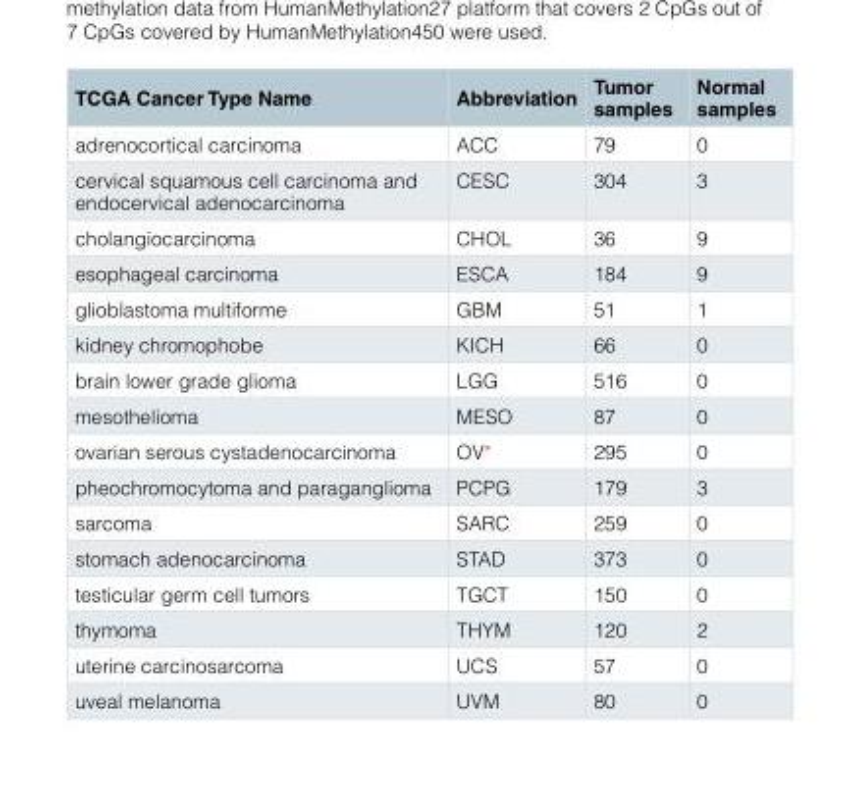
<table><thead><tr><td>TCGA Cancer Type Name</td><td>Abbreviation</td><td>Tumor samples</td><td>Normal samples</td></tr></thead><tbody><tr><td>adrenocortical carcinoma</td><td>ACC</td><td>79</td><td>0</td></tr><tr><td>cervical squamous cell carcinoma and endocervical adenocarcinoma</td><td>CESC</td><td>304</td><td>3</td></tr><tr><td>cholangiocarcinoma</td><td>CHOL</td><td>36</td><td>9</td></tr><tr><td>esophageal carcinoma</td><td>ESCA</td><td>184</td><td>9</td></tr><tr><td>glioblastoma multiforme</td><td>GBM</td><td>51</td><td>1</td></tr><tr><td>kidney chromophobe</td><td>KICH</td><td>66</td><td>0</td></tr><tr><td>brain lower grade glioma</td><td>LGG</td><td>516</td><td>0</td></tr><tr><td>mesothelioma</td><td>MESO</td><td>87</td><td>0</td></tr><tr><td>ovarian serous cystadenocarcinoma</td><td>OV*</td><td>295</td><td>0</td></tr><tr><td>pheochromocytoma and paraganglioma</td><td>PCPG</td><td>179</td><td>3</td></tr><tr><td>sarcoma</td><td>SARC</td><td>259</td><td>0</td></tr><tr><td>stomach adenocarcinoma</td><td>STAD</td><td>373</td><td>0</td></tr><tr><td>testicular germ cell tumors</td><td>TGCT</td><td>150</td><td>0</td></tr><tr><td>thymoma</td><td>THYM</td><td>120</td><td>2</td></tr><tr><td>uterine carcinosarcoma</td><td>UCS</td><td>57</td><td>0</td></tr><tr><td>uveal melanoma</td><td>UVM</td><td>80</td><td>0</td></tr></tbody></table>